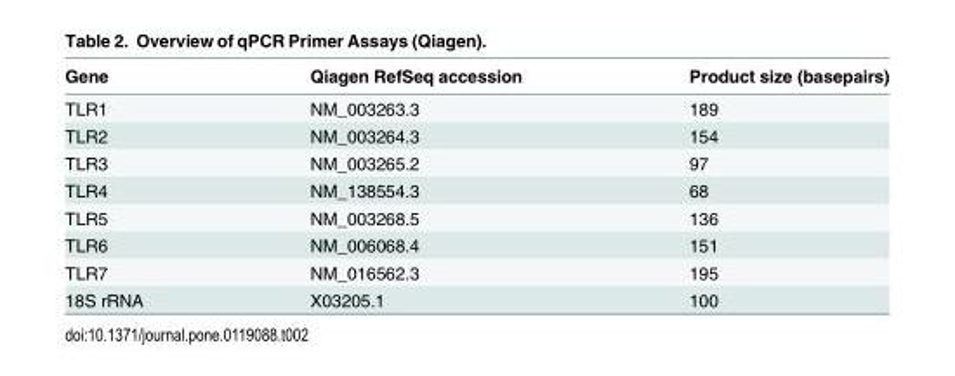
<table><thead><tr><td>Gene</td><td>Qiagen RefSeq accession</td><td>Product size (basepairs)</td></tr></thead><tbody><tr><td>TLR1</td><td>NM_003263.3</td><td>189</td></tr><tr><td>TLR2</td><td>NM_003264.3</td><td>154</td></tr><tr><td>TLR3</td><td>NM_003265.2</td><td>97</td></tr><tr><td>TLR4</td><td>NM_138554.3</td><td>68</td></tr><tr><td>TLR5</td><td>NM_003268.5</td><td>136</td></tr><tr><td>TLR6</td><td>NM_006068.4</td><td>151</td></tr><tr><td>TLR7</td><td>NM_016562.3</td><td>195</td></tr><tr><td>18S rRNA</td><td>X03205.1</td><td>100</td></tr></tbody></table>